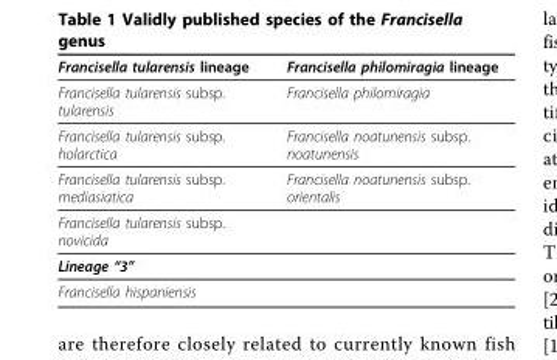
<table><thead><tr><td>Francisella tularensis lineage</td><td>Francisella philomiragia lineage</td></tr></thead><tbody><tr><td>Francisella tularensis subsp. tularensis</td><td>Francisella philomiragia</td></tr><tr><td>Francisella tularensis subsp. holarctica</td><td>Francisella noatunensis subsp. noatunensis</td></tr><tr><td>Francisella tularensis subsp. mediasiatica</td><td>Francisella noatunensis subsp. orientalis</td></tr><tr><td colspan="2">Francisella tularensis subsp. novicida</td></tr><tr><td colspan="2">Lineage “3”</td></tr><tr><td>Francisella hispaniensis</td><td></td></tr></tbody></table>